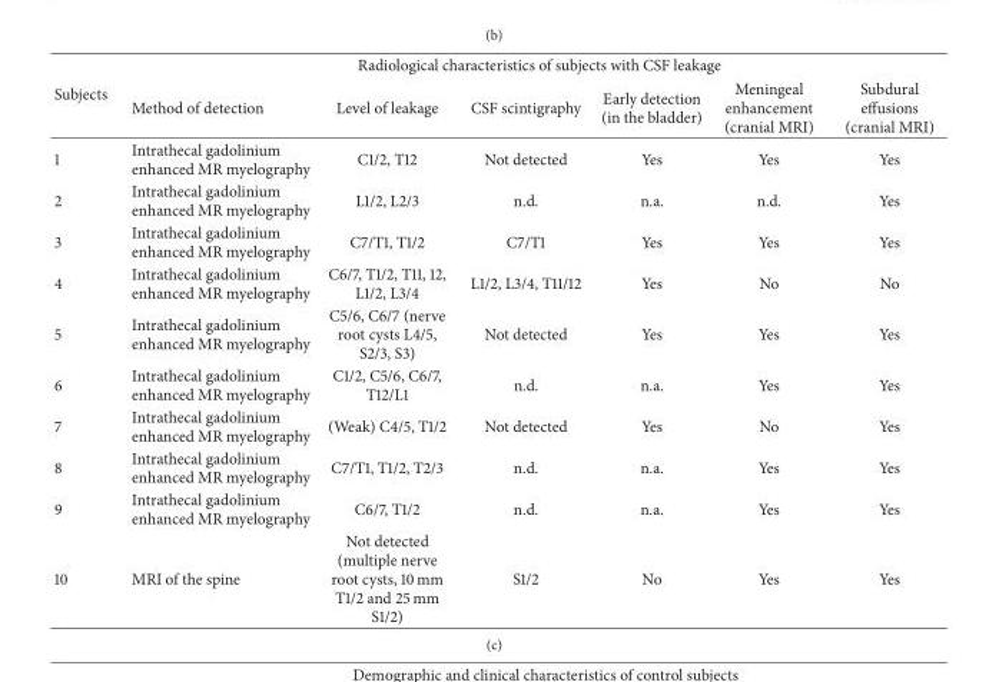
<table><thead><tr><td rowspan="2">Subjects</td><td colspan="6">Radiological characteristics of subjects with CSF leakage</td></tr><tr><td>Method of detection</td><td>Level of leakage</td><td>CSF scintigraphy</td><td>Early detection (in the bladder)</td><td>Meningeal enhancement (cranial MRI)</td><td>Subdural effusions (cranial MRI)</td></tr></thead><tbody><tr><td>1</td><td>Intrathecal gadolinium enhanced MR myelography</td><td>C1/2, T12</td><td>Not detected</td><td>Yes</td><td>Yes</td><td>Yes</td></tr><tr><td>2</td><td>Intrathecal gadolinium enhanced MR myelography</td><td>L1/2, L2/3</td><td>n.d.</td><td>n.a.</td><td>n.d.</td><td>Yes</td></tr><tr><td>3</td><td>Intrathecal gadolinium enhanced MR myelography</td><td>C7/T1, T1/2</td><td>C7/T1</td><td>Yes</td><td>Yes</td><td>Yes</td></tr><tr><td>4</td><td>Intrathecal gadolinium enhanced MR myelography</td><td>C6/7, T1/2, T11, 12, L1/2, L3/4</td><td>L1/2, L3/4, T11/12</td><td>Yes</td><td>No</td><td>No</td></tr><tr><td>5</td><td>Intrathecal gadolinium enhanced MR myelography</td><td>C5/6, C6/7 (nerve root cysts L4/5, S2/3, S3)</td><td>Not detected</td><td>Yes</td><td>Yes</td><td>Yes</td></tr><tr><td>6</td><td>Intrathecal gadolinium enhanced MR myelography</td><td>C1/2, C5/6, C6/7, T12/L1</td><td>n.d.</td><td>n.a.</td><td>Yes</td><td>Yes</td></tr><tr><td>7</td><td>Intrathecal gadolinium enhanced MR myelography</td><td>(Weak) C4/5, T1/2</td><td>Not detected</td><td>Yes</td><td>No</td><td>Yes</td></tr><tr><td>8</td><td>Intrathecal gadolinium enhanced MR myelography</td><td>C7/T1, T1/2, T2/3</td><td>n.d.</td><td>n.a.</td><td>Yes</td><td>Yes</td></tr><tr><td>9</td><td>Intrathecal gadolinium enhanced MR myelography</td><td>C6/7, T1/2</td><td>n.d.</td><td>n.a.</td><td>Yes</td><td>Yes</td></tr><tr><td>10</td><td>MRI of the spine</td><td>Not detected (multiple nerve root cysts, 10 mm T1/2 and 25 mm S1/2)</td><td>S1/2</td><td>No</td><td>Yes</td><td>Yes</td></tr></tbody></table>